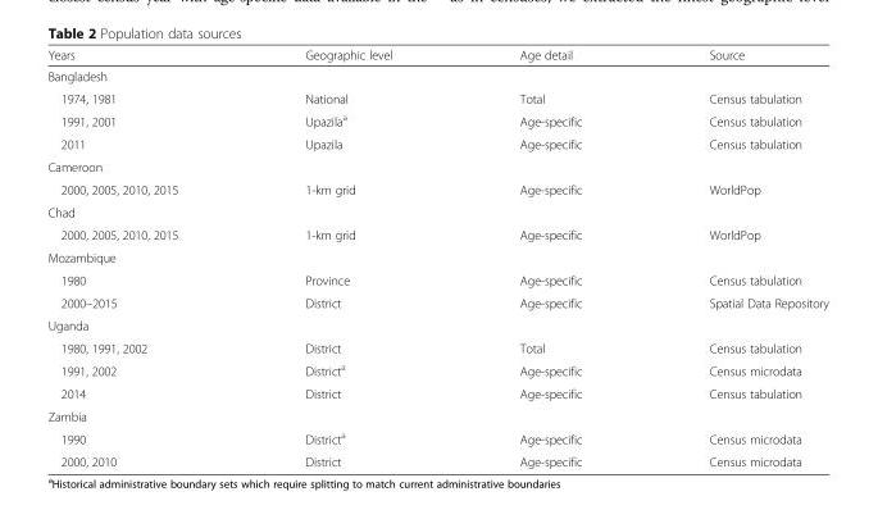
<table><thead><tr><td>Years</td><td>Geographic level</td><td>Age detail</td><td>Source</td></tr></thead><tbody><tr><td colspan="4">Bangladesh</td></tr><tr><td>1974, 1981</td><td>National</td><td>Total</td><td>Census tabulation</td></tr><tr><td>1991, 2001</td><td>Upazila<sup>a</sup></td><td>Age-specific</td><td>Census tabulation</td></tr><tr><td>2011</td><td>Upazila</td><td>Age-specific</td><td>Census tabulation</td></tr><tr><td colspan="4">Cameroon</td></tr><tr><td>2000, 2005, 2010, 2015</td><td>1-km grid</td><td>Age-specific</td><td>WorldPop</td></tr><tr><td colspan="4">Chad</td></tr><tr><td>2000, 2005, 2010, 2015</td><td>1-km grid</td><td>Age-specific</td><td>WorldPop</td></tr><tr><td colspan="4">Mozambique</td></tr><tr><td>1980</td><td>Province</td><td>Age-specific</td><td>Census tabulation</td></tr><tr><td>2000–2015</td><td>District</td><td>Age-specific</td><td>Spatial Data Repository</td></tr><tr><td colspan="4">Uganda</td></tr><tr><td>1980, 1991, 2002</td><td>District</td><td>Total</td><td>Census tabulation</td></tr><tr><td>1991, 2002</td><td>District<sup>a</sup></td><td>Age-specific</td><td>Census microdata</td></tr><tr><td>2014</td><td>District</td><td>Age-specific</td><td>Census tabulation</td></tr><tr><td colspan="4">Zambia</td></tr><tr><td>1990</td><td>District<sup>a</sup></td><td>Age-specific</td><td>Census microdata</td></tr><tr><td>2000, 2010</td><td>District</td><td>Age-specific</td><td>Census microdata</td></tr></tbody></table>